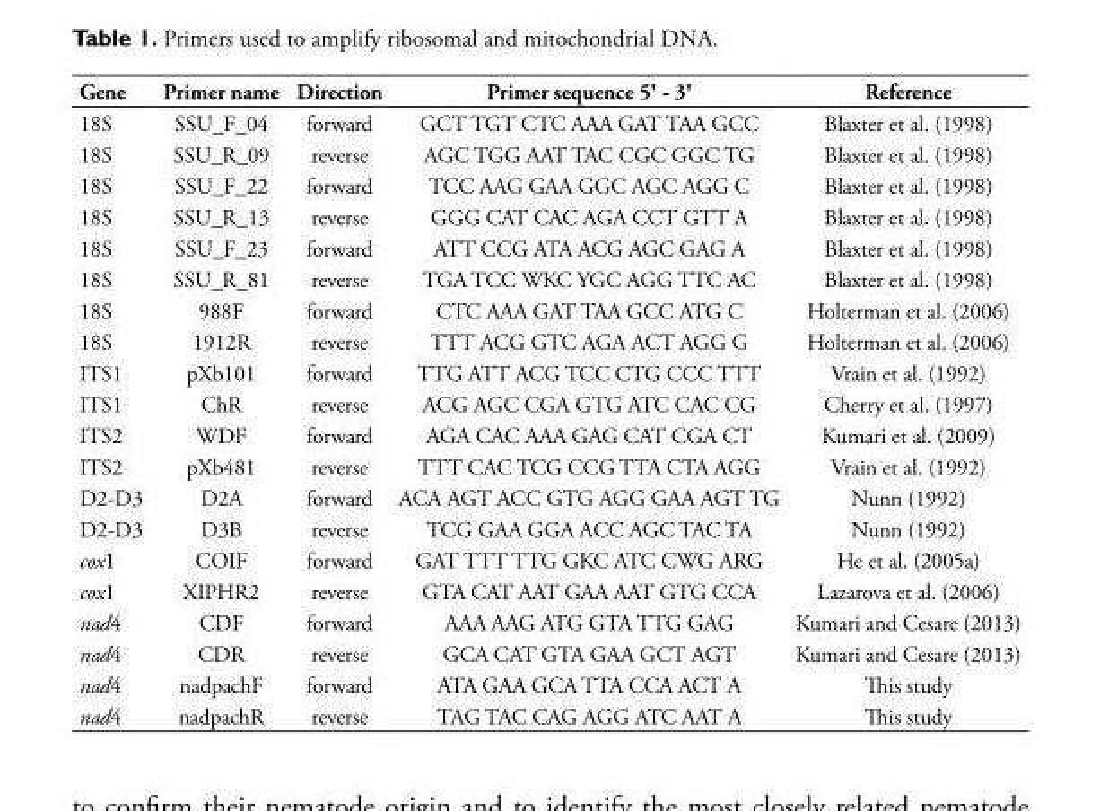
<table><thead><tr><td>Gene</td><td>Primer name</td><td>Direction</td><td>Primer sequence 5′ - 3′</td><td>Reference</td></tr></thead><tbody><tr><td>18S</td><td>SSU_F_04</td><td>forward</td><td>GCT TGT CTC AAA GAT TAA GCC</td><td>Blaxter et al. (1998)</td></tr><tr><td>18S</td><td>SSU_R_09</td><td>reverse</td><td>AGC TGG AAT TAC CGC GGC TG</td><td>Blaxter et al. (1998)</td></tr><tr><td>18S</td><td>SSU_F_22</td><td>forward</td><td>TCC AAG GAA GGC AGC AGG C</td><td>Blaxter et al. (1998)</td></tr><tr><td>18S</td><td>SSU_R_13</td><td>reverse</td><td>GGG CAT CAC AGA CCT GTT A</td><td>Blaxter et al. (1998)</td></tr><tr><td>18S</td><td>SSU_F_23</td><td>forward</td><td>ATT CCG ATA ACG AGC GAG A</td><td>Blaxter et al. (1998)</td></tr><tr><td>18S</td><td>SSU_R_81</td><td>reverse</td><td>TGA TCC WKC YGC AGG TTC AC</td><td>Blaxter et al. (1998)</td></tr><tr><td>18S</td><td>988F</td><td>forward</td><td>CTC AAA GAT TAA GCC ATG C</td><td>Holterman et al. (2006)</td></tr><tr><td>18S</td><td>1912R</td><td>reverse</td><td>TTT ACG GTC AGA ACT AGG G</td><td>Holterman et al. (2006)</td></tr><tr><td>ITS1</td><td>pXb101</td><td>forward</td><td>TTG ATT ACG TCC CTG CCC TTT</td><td>Vrain et al. (1992)</td></tr><tr><td>ITS1</td><td>ChR</td><td>reverse</td><td>ACG AGC CGA GTG ATC CAC CG</td><td>Cherry et al. (1997)</td></tr><tr><td>ITS2</td><td>WDF</td><td>forward</td><td>AGA CAC AAA GAG CAT CGA CT</td><td>Kumari et al. (2009)</td></tr><tr><td>ITS2</td><td>pXb481</td><td>reverse</td><td>TTT CAC TCG CCG TTA CTA AGG</td><td>Vrain et al. (1992)</td></tr><tr><td>D2-D3</td><td>D2A</td><td>forward</td><td>ACA AGT ACC GTG AGG GAA AGT TG</td><td>Nunn (1992)</td></tr><tr><td>D2-D3</td><td>D3B</td><td>reverse</td><td>TCG GAA GGA ACC AGC TAC TA</td><td>Nunn (1992)</td></tr><tr><td>cox1</td><td>COIF</td><td>forward</td><td>GAT TTT TTG GKC ATC CWG ARG</td><td>He et al. (2005a)</td></tr><tr><td>cox1</td><td>XIPHR2</td><td>reverse</td><td>GTA CAT AAT GAA AAT GTG CCA</td><td>Lazarova et al. (2006)</td></tr><tr><td>nad4</td><td>CDF</td><td>forward</td><td>AAA AAG ATG GTA TTG GAG</td><td>Kumari and Cesare (2013)</td></tr><tr><td>nad4</td><td>CDR</td><td>reverse</td><td>GCA CAT GTA GAA GCT AGT</td><td>Kumari and Cesare (2013)</td></tr><tr><td>nad4</td><td>nadpachF</td><td>forward</td><td>ATA GAA GCA TTA CCA ACT A</td><td>This study</td></tr><tr><td>nad4</td><td>nadpachR</td><td>reverse</td><td>TAG TAC CAG AGG ATC AAT A</td><td>This study</td></tr></tbody></table>